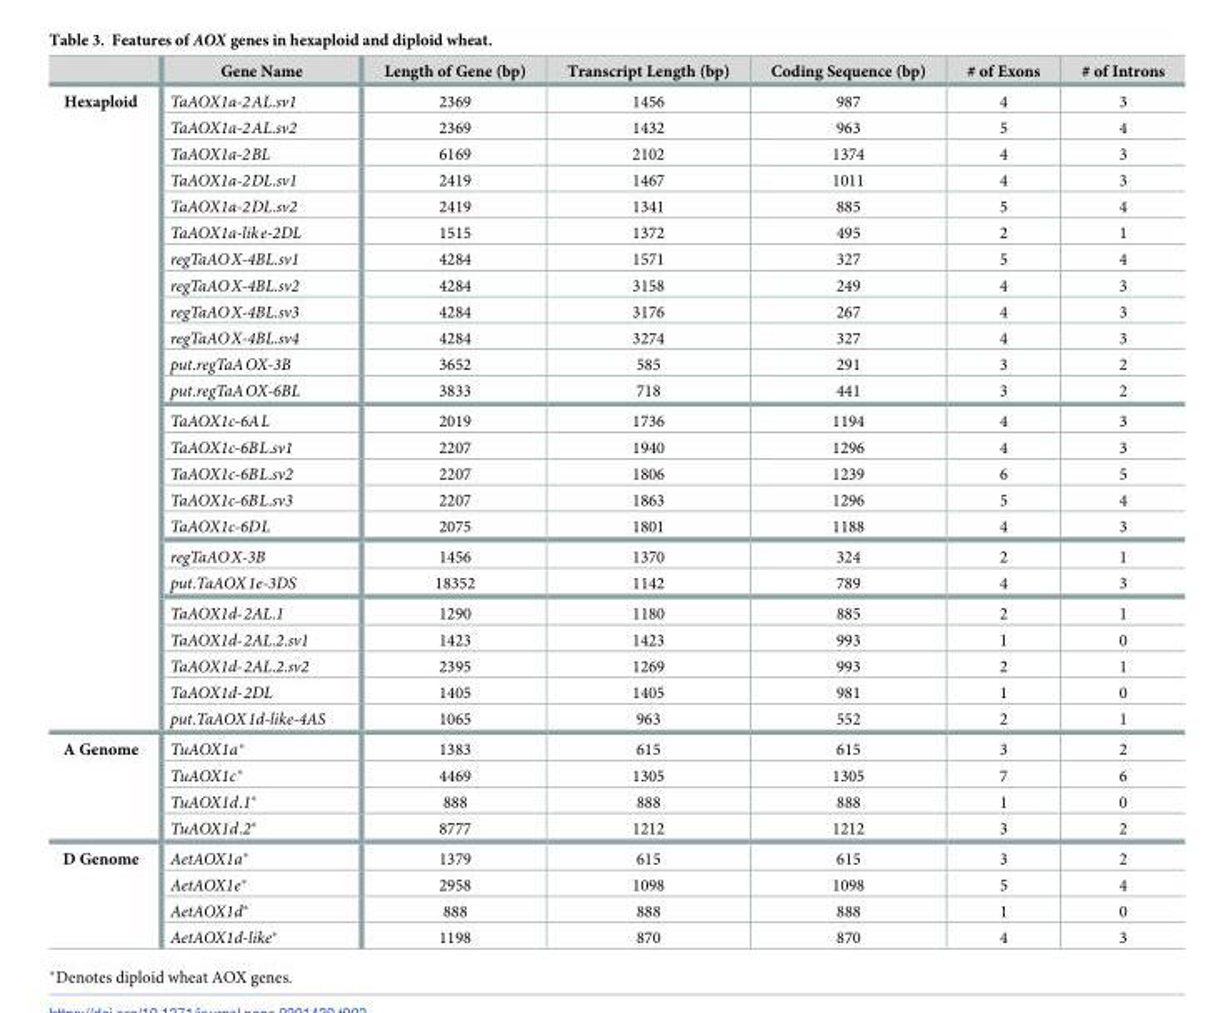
<table><thead><tr><td></td><td>Gene Name</td><td>Length of Gene (bp)</td><td>Transcript Length (bp)</td><td>Coding Sequence (bp)</td><td># of Exons</td><td># of Introns</td></tr></thead><tbody><tr><td rowspan="24">Hexaploid</td><td>TaAOX1a-2AL.sv1</td><td>2369</td><td>1456</td><td>987</td><td>4</td><td>3</td></tr><tr><td>TaAOX1a-2AL.sv2</td><td>2369</td><td>1432</td><td>963</td><td>5</td><td>4</td></tr><tr><td>TaAOX1a-2BL</td><td>6169</td><td>2102</td><td>1374</td><td>4</td><td>3</td></tr><tr><td>TaAOX1a-2DL.sv1</td><td>2419</td><td>1467</td><td>1011</td><td>4</td><td>3</td></tr><tr><td>TaAOX1a-2DL.sv2</td><td>2419</td><td>1341</td><td>885</td><td>5</td><td>4</td></tr><tr><td>TaAOX1a-like-2DL</td><td>1515</td><td>1372</td><td>495</td><td>2</td><td>1</td></tr><tr><td>regTaAOX-4BL.sv1</td><td>4284</td><td>1571</td><td>327</td><td>5</td><td>4</td></tr><tr><td>regTaAOX-4BL.sv2</td><td>4284</td><td>3158</td><td>249</td><td>4</td><td>3</td></tr><tr><td>regTaAOX-4BL.sv3</td><td>4284</td><td>3176</td><td>267</td><td>4</td><td>3</td></tr><tr><td>regTaAOX-4BL.sv4</td><td>4284</td><td>3274</td><td>327</td><td>4</td><td>3</td></tr><tr><td>put.regTaAOX-3B</td><td>3652</td><td>585</td><td>291</td><td>3</td><td>2</td></tr><tr><td>put.regTaAOX-6BL</td><td>3833</td><td>718</td><td>441</td><td>3</td><td>2</td></tr><tr><td>TaAOX1c-6AL</td><td>2019</td><td>1736</td><td>1194</td><td>4</td><td>3</td></tr><tr><td>TaAOX1c-6BL.sv1</td><td>2207</td><td>1940</td><td>1296</td><td>4</td><td>3</td></tr><tr><td>TaAOX1c-6BL.sv2</td><td>2207</td><td>1806</td><td>1239</td><td>6</td><td>5</td></tr><tr><td>TaAOX1c-6BL.sv3</td><td>2207</td><td>1863</td><td>1296</td><td>5</td><td>4</td></tr><tr><td>TaAOX1c-6DL</td><td>2075</td><td>1801</td><td>1188</td><td>4</td><td>3</td></tr><tr><td>regTaAOX-3B</td><td>1456</td><td>1370</td><td>324</td><td>2</td><td>1</td></tr><tr><td>put.TaAOX1e-3DS</td><td>18352</td><td>1142</td><td>789</td><td>4</td><td>3</td></tr><tr><td>TaAOX1d-2AL.1</td><td>1290</td><td>1180</td><td>885</td><td>2</td><td>1</td></tr><tr><td>TaAOX1d-2AL.2.sv1</td><td>1423</td><td>1423</td><td>993</td><td>1</td><td>0</td></tr><tr><td>TaAOX1d-2AL.2.sv2</td><td>2395</td><td>1269</td><td>993</td><td>2</td><td>1</td></tr><tr><td>TaAOX1d-2DL</td><td>1405</td><td>1405</td><td>981</td><td>1</td><td>0</td></tr><tr><td>put.TaAOX1d-like-4AS</td><td>1065</td><td>963</td><td>552</td><td>2</td><td>1</td></tr><tr><td rowspan="4">A Genome</td><td>TuAOX1a*</td><td>1383</td><td>615</td><td>615</td><td>3</td><td>2</td></tr><tr><td>TuAOX1c*</td><td>4469</td><td>1305</td><td>1305</td><td>7</td><td>6</td></tr><tr><td>TuAOX1d.1*</td><td>888</td><td>888</td><td>888</td><td>1</td><td>0</td></tr><tr><td>TuAOX1d.2*</td><td>8777</td><td>1212</td><td>1212</td><td>3</td><td>2</td></tr><tr><td rowspan="4">D Genome</td><td>AetAOX1a*</td><td>1379</td><td>615</td><td>615</td><td>3</td><td>2</td></tr><tr><td>AetAOX1e*</td><td>2958</td><td>1098</td><td>1098</td><td>5</td><td>4</td></tr><tr><td>AetAOX1d*</td><td>888</td><td>888</td><td>888</td><td>1</td><td>0</td></tr><tr><td>AetAOX1d-like*</td><td>1198</td><td>870</td><td>870</td><td>4</td><td>3</td></tr></tbody></table>